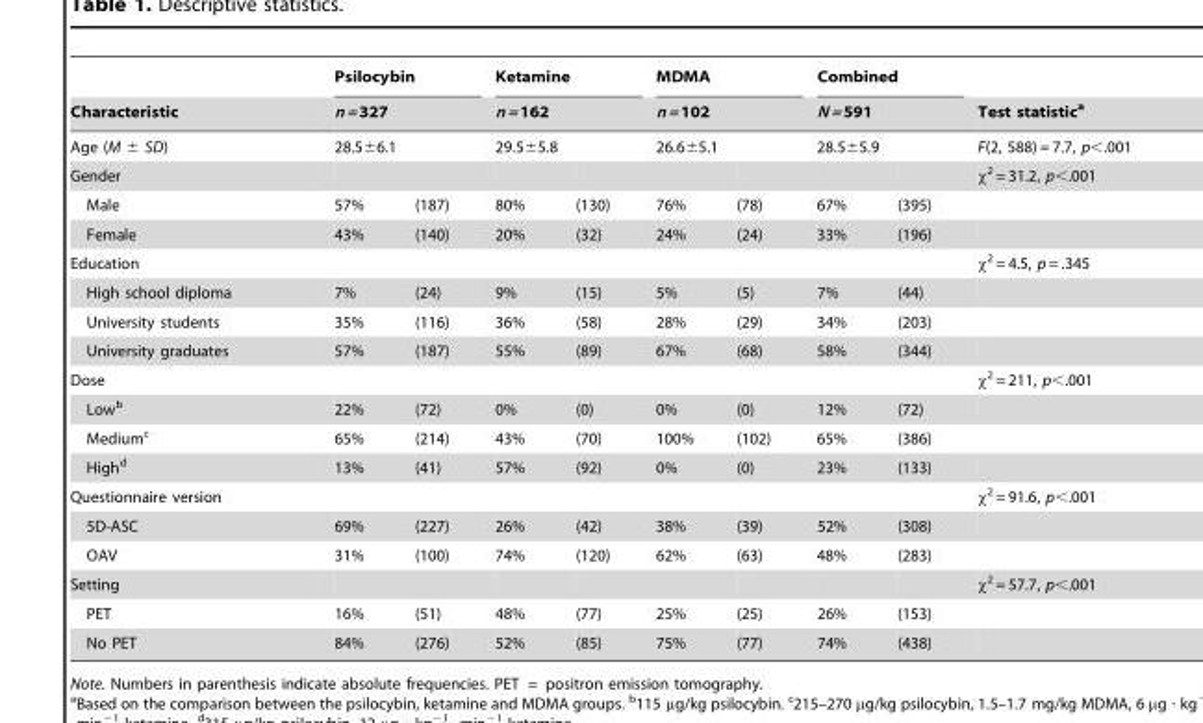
<table><thead><tr><td rowspan="4">Characteristic Age (M ± SD) Gender</td><td rowspan="3" colspan="2">Psilocybin n = 327 28.5±6.1</td><td rowspan="3" colspan="2">Ketamine n = 162 29.5±5.8</td><td rowspan="3" colspan="2">MDMA n = 102 26.6±5.1</td><td rowspan="3" colspan="2">Combined N = 591 28.5±5.9</td><td rowspan="4">Test statistic<sup>a</sup> F(2, 588) = 7.7, p&lt;.001 χ<sup>2</sup> = 31.2, p&lt;.001</td></tr><tr></tr><tr></tr><tr><td></td><td></td><td></td><td></td><td></td><td></td><td></td><td></td></tr></thead><tbody><tr><td>Male</td><td>57%</td><td>(187)</td><td>80%</td><td>(130)</td><td>76%</td><td>(78)</td><td>67%</td><td>(395)</td><td></td></tr><tr><td>Female</td><td>43%</td><td>(140)</td><td>20%</td><td>(32)</td><td>24%</td><td>(24)</td><td>33%</td><td>(196)</td><td></td></tr><tr><td>Education</td><td></td><td></td><td></td><td></td><td></td><td></td><td></td><td></td><td>χ<sup>2</sup> = 4.5, p = .345</td></tr><tr><td>High school diploma</td><td>7%</td><td>(24)</td><td>9%</td><td>(15)</td><td>5%</td><td>(5)</td><td>7%</td><td>(44)</td><td></td></tr><tr><td>University students</td><td>35%</td><td>(116)</td><td>36%</td><td>(58)</td><td>28%</td><td>(29)</td><td>34%</td><td>(203)</td><td></td></tr><tr><td>University graduates</td><td>57%</td><td>(187)</td><td>55%</td><td>(89)</td><td>67%</td><td>(68)</td><td>58%</td><td>(344)</td><td></td></tr><tr><td>Dose</td><td></td><td></td><td></td><td></td><td></td><td></td><td></td><td></td><td>χ<sup>2</sup> = 211, p&lt;.001</td></tr><tr><td>Low<sup>b</sup></td><td>22%</td><td>(72)</td><td>0%</td><td>(0)</td><td>0%</td><td>(0)</td><td>12%</td><td>(72)</td><td></td></tr><tr><td>Medium<sup>c</sup></td><td>65%</td><td>(214)</td><td>43%</td><td>(70)</td><td>100%</td><td>(102)</td><td>65%</td><td>(386)</td><td></td></tr><tr><td>High<sup>d</sup></td><td>13%</td><td>(41)</td><td>57%</td><td>(92)</td><td>0%</td><td>(0)</td><td>23%</td><td>(133)</td><td></td></tr><tr><td>Questionnaire version</td><td></td><td></td><td></td><td></td><td></td><td></td><td></td><td></td><td>χ<sup>2</sup> = 91.6, p&lt;.001</td></tr><tr><td>5D-ASC</td><td>69%</td><td>(227)</td><td>26%</td><td>(42)</td><td>38%</td><td>(39)</td><td>52%</td><td>(308)</td><td></td></tr><tr><td>OAV</td><td>31%</td><td>(100)</td><td>74%</td><td>(120)</td><td>62%</td><td>(63)</td><td>48%</td><td>(283)</td><td></td></tr><tr><td>Setting</td><td></td><td></td><td></td><td></td><td></td><td></td><td></td><td></td><td>χ<sup>2</sup> = 57.7, p&lt;.001</td></tr><tr><td>PET</td><td>16%</td><td>(51)</td><td>48%</td><td>(77)</td><td>25%</td><td>(25)</td><td>26%</td><td>(153)</td><td></td></tr><tr><td>No PET</td><td>84%</td><td>(276)</td><td>52%</td><td>(85)</td><td>75%</td><td>(77)</td><td>74%</td><td>(438)</td><td></td></tr></tbody></table>